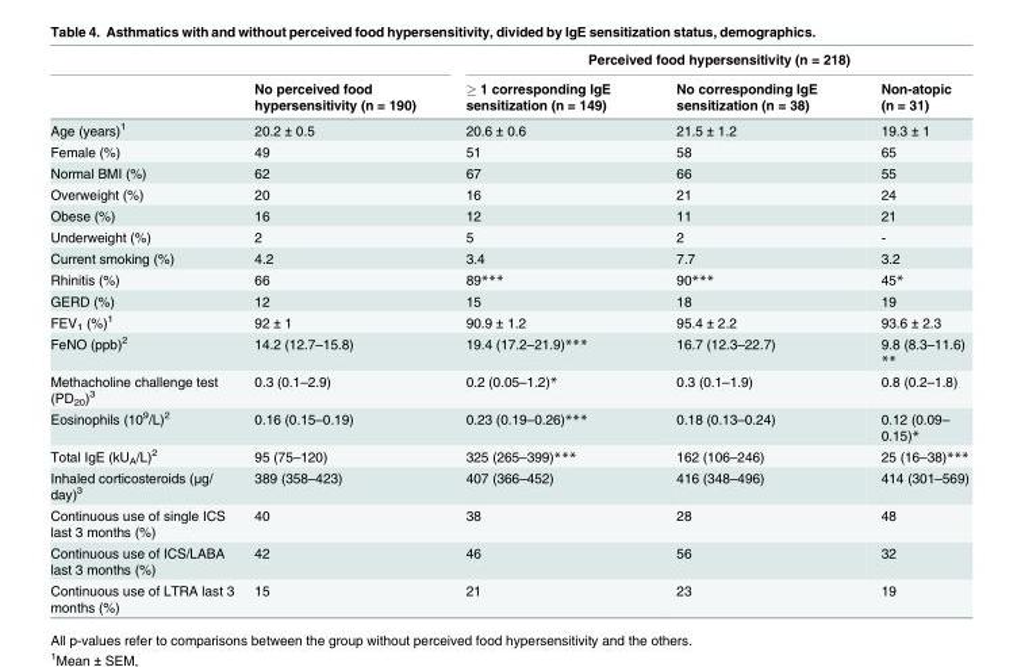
<table><thead><tr><td rowspan="2"></td><td rowspan="2">No perceived food hypersensitivity (n = 190)</td><td colspan="3">Perceived food hypersensitivity (n = 218)</td></tr><tr><td>≥ 1 corresponding IgE sensitization (n = 149)</td><td>No corresponding IgE sensitization (n = 38)</td><td>Non-atopic (n = 31)</td></tr></thead><tbody><tr><td>Age (years)<sup>1</sup></td><td>20.2 ± 0.5</td><td>20.6 ± 0.6</td><td>21.5 ± 1.2</td><td>19.3 ± 1</td></tr><tr><td>Female (%)</td><td>49</td><td>51</td><td>58</td><td>65</td></tr><tr><td>Normal BMI (%)</td><td>62</td><td>67</td><td>66</td><td>55</td></tr><tr><td>Overweight (%)</td><td>20</td><td>16</td><td>21</td><td>24</td></tr><tr><td>Obese (%)</td><td>16</td><td>12</td><td>11</td><td>21</td></tr><tr><td>Underweight (%)</td><td>2</td><td>5</td><td>2</td><td>-</td></tr><tr><td>Current smoking (%)</td><td>4.2</td><td>3.4</td><td>7.7</td><td>3.2</td></tr><tr><td>Rhinitis (%)</td><td>66</td><td>89***</td><td>90***</td><td>45*</td></tr><tr><td>GERD (%)</td><td>12</td><td>15</td><td>18</td><td>19</td></tr><tr><td>FEV<sub>1</sub> (%)<sup>1</sup></td><td>92 ± 1</td><td>90.9 ± 1.2</td><td>95.4 ± 2.2</td><td>93.6 ± 2.3</td></tr><tr><td>FeNO (ppb)<sup>2</sup></td><td>14.2 (12.7–15.8)</td><td>19.4 (17.2–21.9)***</td><td>16.7 (12.3–22.7)</td><td>9.8 (8.3–11.6) **</td></tr><tr><td>Methacholine challenge test (PD<sub>20</sub>)<sup>3</sup></td><td>0.3 (0.1–2.9)</td><td>0.2 (0.05–1.2)*</td><td>0.3 (0.1–1.9)</td><td>0.8 (0.2–1.8)</td></tr><tr><td>Eosinophils (10<sup>9</sup>/L)<sup>2</sup></td><td>0.16 (0.15–0.19)</td><td>0.23 (0.19–0.26)***</td><td>0.18 (0.13–0.24)</td><td>0.12 (0.09– 0.15)*</td></tr><tr><td>Total IgE (kU<sub>A</sub>/L)<sup>2</sup></td><td>95 (75–120)</td><td>325 (265–399)***</td><td>162 (106–246)</td><td>25 (16–38)***</td></tr><tr><td>Inhaled corticosteroids (μg/ day)<sup>3</sup></td><td>389 (358–423)</td><td>407 (366–452)</td><td>416 (348–496)</td><td>414 (301–569)</td></tr><tr><td>Continuous use of single ICS last 3 months (%)</td><td>40</td><td>38</td><td>28</td><td>48</td></tr><tr><td>Continuous use of ICS/LABA last 3 months (%)</td><td>42</td><td>46</td><td>56</td><td>32</td></tr><tr><td>Continuous use of LTRA last 3 months (%)</td><td>15</td><td>21</td><td>23</td><td>19</td></tr></tbody></table>